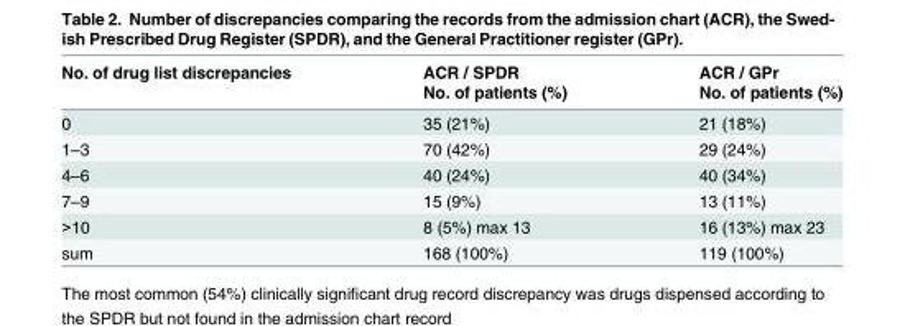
<table><thead><tr><td rowspan="2">No. of drug list discrepancies</td><td rowspan="2">ACR / SPDR No. of patients (%)</td><td rowspan="2">ACR / GPr No. of patients (%)</td></tr><tr></tr></thead><tbody><tr><td>0</td><td>35 (21%)</td><td>21 (18%)</td></tr><tr><td>1–3</td><td>70 (42%)</td><td>29 (24%)</td></tr><tr><td>4–6</td><td>40 (24%)</td><td>40 (34%)</td></tr><tr><td>7–9</td><td>15 (9%)</td><td>13 (11%)</td></tr><tr><td>&gt;10</td><td>8 (5%) max 13</td><td>16 (13%) max 23</td></tr><tr><td>sum</td><td>168 (100%)</td><td>119 (100%)</td></tr></tbody></table>